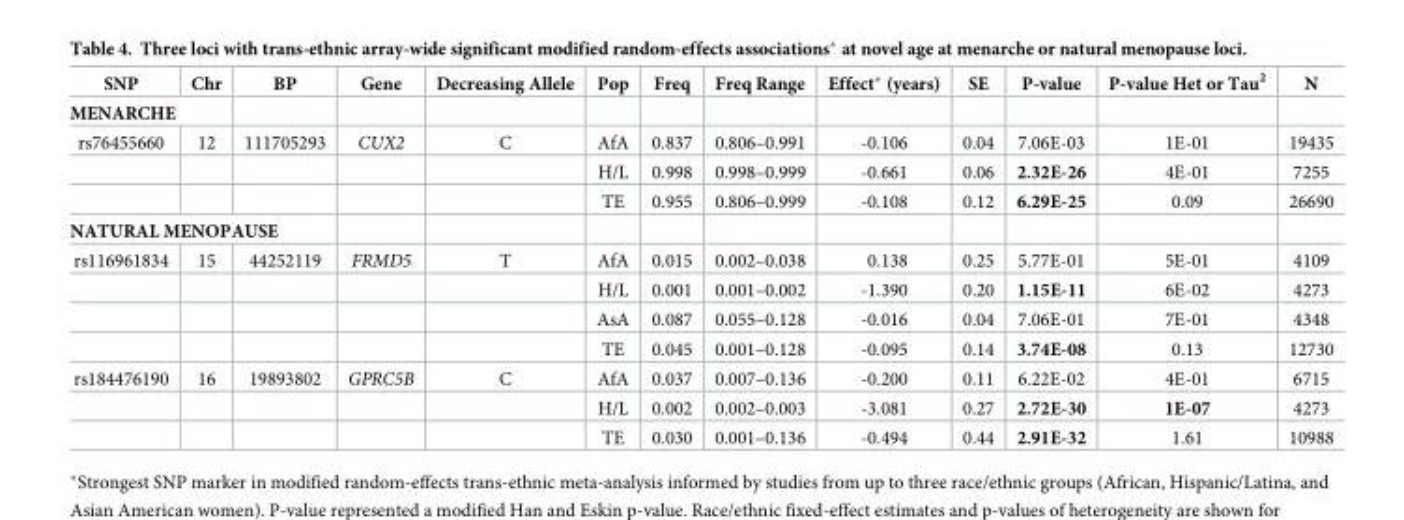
<table><thead><tr><td>SNP</td><td>Chr</td><td>BP</td><td>Gene</td><td>Decreasing Allele</td><td>Pop</td><td>Freq</td><td>Freq Range</td><td>Effect* (years)</td><td>SE</td><td>P-value</td><td>P-value Het or Tau<sup>2</sup></td><td>N</td></tr></thead><tbody><tr><td colspan="13">MENARCHE</td></tr><tr><td rowspan="3">rs76455660</td><td>12</td><td>111705293</td><td>CUX2</td><td>C</td><td>AfA</td><td>0.837</td><td>0.806–0.991</td><td>-0.106</td><td>0.04</td><td>7.06E-03</td><td>1E-01</td><td>19435</td></tr><tr><td></td><td></td><td></td><td></td><td>H/L</td><td>0.998</td><td>0.998–0.999</td><td>-0.661</td><td>0.06</td><td>2.32E-26</td><td>4E-01</td><td>7255</td></tr><tr><td></td><td></td><td></td><td></td><td>TE</td><td>0.955</td><td>0.806–0.999</td><td>-0.108</td><td>0.12</td><td>6.29E-25</td><td>0.09</td><td>26690</td></tr><tr><td colspan="13">NATURAL MENOPAUSE</td></tr><tr><td rowspan="4">rs116961834</td><td>15</td><td>44252119</td><td>FRMD5</td><td>T</td><td>AfA</td><td>0.015</td><td>0.002–0.038</td><td>0.138</td><td>0.25</td><td>5.77E-01</td><td>5E-01</td><td>4109</td></tr><tr><td></td><td></td><td></td><td></td><td>H/L</td><td>0.001</td><td>0.001–0.002</td><td>-1.390</td><td>0.20</td><td>1.15E-11</td><td>6E-02</td><td>4273</td></tr><tr><td></td><td></td><td></td><td></td><td>AsA</td><td>0.087</td><td>0.055–0.128</td><td>-0.016</td><td>0.04</td><td>7.06E-01</td><td>7E-01</td><td>4348</td></tr><tr><td></td><td></td><td></td><td></td><td>TE</td><td>0.045</td><td>0.001–0.128</td><td>-0.095</td><td>0.14</td><td>3.74E-08</td><td>0.13</td><td>12730</td></tr><tr><td rowspan="3">rs184476190</td><td>16</td><td>19893802</td><td>GPRC5B</td><td>C</td><td>AfA</td><td>0.037</td><td>0.007–0.136</td><td>-0.200</td><td>0.11</td><td>6.22E-02</td><td>4E-01</td><td>6715</td></tr><tr><td></td><td></td><td></td><td></td><td>H/L</td><td>0.002</td><td>0.002–0.003</td><td>-3.081</td><td>0.27</td><td>2.72E-30</td><td>1E-07</td><td>4273</td></tr><tr><td></td><td></td><td></td><td></td><td>TE</td><td>0.030</td><td>0.001–0.136</td><td>-0.494</td><td>0.44</td><td>2.91E-32</td><td>1.61</td><td>10988</td></tr></tbody></table>